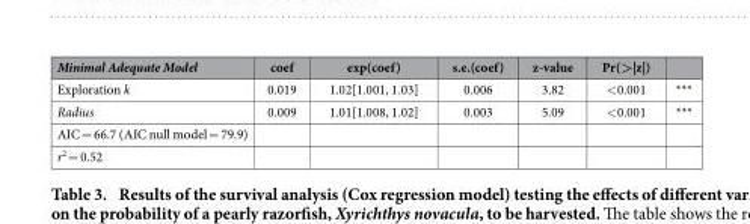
<table><thead><tr><td>Minimal Adequate Model</td><td>coef</td><td>exp(coef)</td><td>s.e.(coef)</td><td>z-value</td><td>Pr(&gt;|z|)</td><td></td></tr></thead><tbody><tr><td>Exploration k</td><td>0.019</td><td>1.02[1.001, 1.03]</td><td>0.006</td><td>3.82</td><td>&lt; 0.001</td><td>***</td></tr><tr><td>Radius</td><td>0.009</td><td>1.01[1.008, 1.02]</td><td>0.003</td><td>5.09</td><td>&lt; 0.001</td><td>***</td></tr><tr><td colspan="7">AIC = 66.7 (AIC null model = 79.9)</td></tr><tr><td>r<sup>2</sup> = 0.52</td><td></td><td></td><td></td><td></td><td></td><td></td></tr></tbody></table>